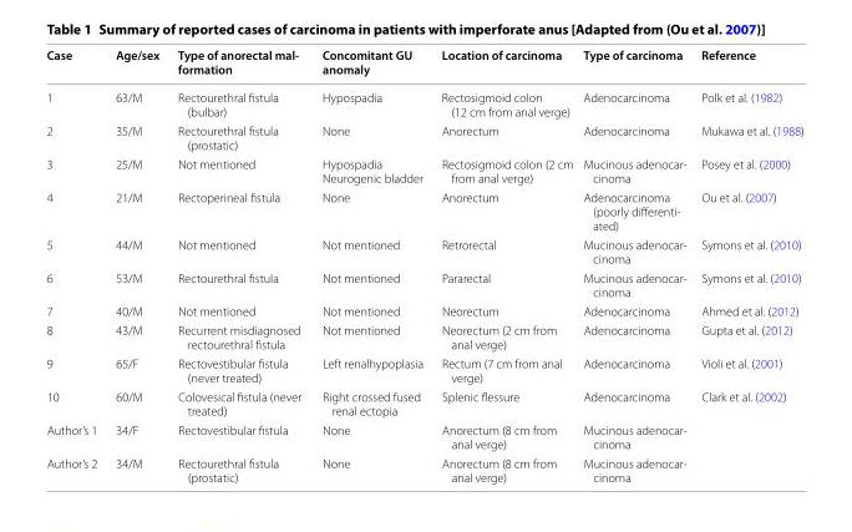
<table><thead><tr><td>Case</td><td>Age/sex</td><td>Type of anorectal mal- formation</td><td>Concomitant GU anomaly</td><td>Location of carcinoma</td><td>Type of carcinoma</td><td>Reference</td></tr></thead><tbody><tr><td>1</td><td>63/M</td><td>Rectourethral fistula (bulbar)</td><td>Hypospadia</td><td>Rectosigmoid colon (12 cm from anal verge)</td><td>Adenocarcinoma</td><td>Polk et al. (1982)</td></tr><tr><td>2</td><td>35/M</td><td>Rectourethral fistula (prostatic)</td><td>None</td><td>Anorectum</td><td>Adenocarcinoma</td><td>Mukawa et al. (1988)</td></tr><tr><td>3</td><td>25/M</td><td>Not mentioned</td><td>Hypospadia Neurogenic bladder</td><td>Rectosigmoid colon (2 cm from anal verge)</td><td>Mucinous adenocar- cinoma</td><td>Posey et al. (2000)</td></tr><tr><td>4</td><td>21/M</td><td>Rectoperineal fistula</td><td>None</td><td>Anorectum</td><td>Adenocarcinoma (poorly differenti- ated)</td><td>Ou et al. (2007)</td></tr><tr><td>5</td><td>44/M</td><td>Not mentioned</td><td>Not mentioned</td><td>Retrorectal</td><td>Mucinous adenocar- cinoma</td><td>Symons et al. (2010)</td></tr><tr><td>6</td><td>53/M</td><td>Rectourethral fistula</td><td>Not mentioned</td><td>Pararectal</td><td>Mucinous adenocar- cinoma</td><td>Symons et al. (2010)</td></tr><tr><td>7</td><td>40/M</td><td>Not mentioned</td><td>Not mentioned</td><td>Neorectum</td><td>Adenocarcinoma</td><td>Ahmed et al. (2012)</td></tr><tr><td>8</td><td>43/M</td><td>Recurrent misdiagnosed rectourethral fistula</td><td>Not mentioned</td><td>Neorectum (2 cm from anal verge)</td><td>Adenocarcinoma</td><td>Gupta et al. (2012)</td></tr><tr><td>9</td><td>65/F</td><td>Rectovestibular fistula (never treated)</td><td>Left renalhypoplasia</td><td>Rectum (7 cm from anal verge)</td><td>Adenocarcinoma</td><td>Violi et al. (2001)</td></tr><tr><td>10</td><td>60/M</td><td>Colovesical fistula (never treated)</td><td>Right crossed fused renal ectopia</td><td>Splenic flessure</td><td>Adenocarcinoma</td><td>Clark et al. (2002)</td></tr><tr><td>Author’s 1</td><td>34/F</td><td>Rectovestibular fistula</td><td>None</td><td>Anorectum (8 cm from anal verge)</td><td>Mucinous adenocar- cinoma</td><td></td></tr><tr><td>Author’s 2</td><td>34/M</td><td>Rectourethral fistula (prostatic)</td><td>None</td><td>Anorectum (8 cm from anal verge)</td><td>Mucinous adenocar- cinoma</td><td></td></tr></tbody></table>